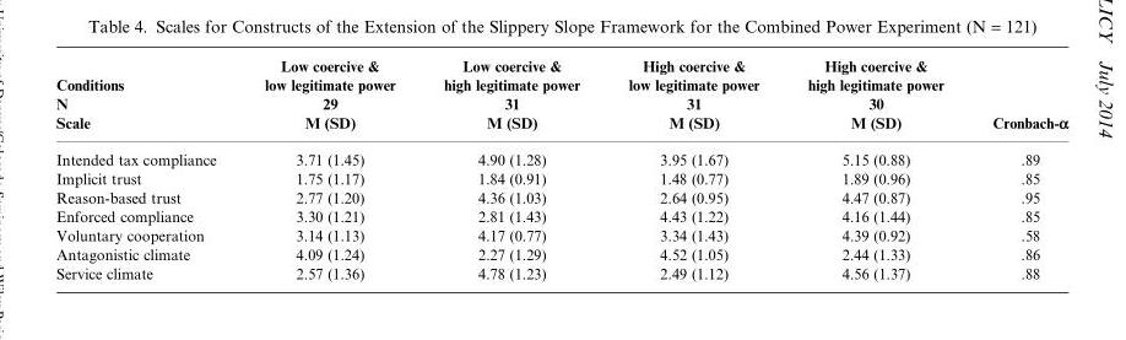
<table><thead><tr><td rowspan="3">Conditions N Scale</td><td rowspan="3">Low coercive &amp; low legitimate power 29 M (SD)</td><td rowspan="3">Low coercive &amp; high legitimate power 31 M (SD)</td><td rowspan="3">High coercive &amp; low legitimate power 31 M (SD)</td><td rowspan="3">High coercive &amp; high legitimate power 30 M (SD)</td><td rowspan="3">Cronbach-α</td></tr><tr></tr><tr></tr></thead><tbody><tr><td>Intended tax compliance</td><td>3.71 (1.45)</td><td>4.90 (1.28)</td><td>3.95 (1.67)</td><td>5.15 (0.88)</td><td>.89</td></tr><tr><td>Implicit trust</td><td>1.75 (1.17)</td><td>1.84 (0.91)</td><td>1.48 (0.77)</td><td>1.89 (0.96)</td><td>.85</td></tr><tr><td>Reason-based trust</td><td>2.77 (1.20)</td><td>4.36 (1.03)</td><td>2.64 (0.95)</td><td>4.47 (0.87)</td><td>.95</td></tr><tr><td>Enforced compliance</td><td>3.30 (1.21)</td><td>2.81 (1.43)</td><td>4.43 (1.22)</td><td>4.16 (1.44)</td><td>.85</td></tr><tr><td>Voluntary cooperation</td><td>3.14 (1.13)</td><td>4.17 (0.77)</td><td>3.34 (1.43)</td><td>4.39 (0.92)</td><td>.58</td></tr><tr><td>Antagonistic climate</td><td>4.09 (1.24)</td><td>2.27 (1.29)</td><td>4.52 (1.05)</td><td>2.44 (1.33)</td><td>.86</td></tr><tr><td>Service climate</td><td>2.57 (1.36)</td><td>4.78 (1.23)</td><td>2.49 (1.12)</td><td>4.56 (1.37)</td><td>.88</td></tr></tbody></table>